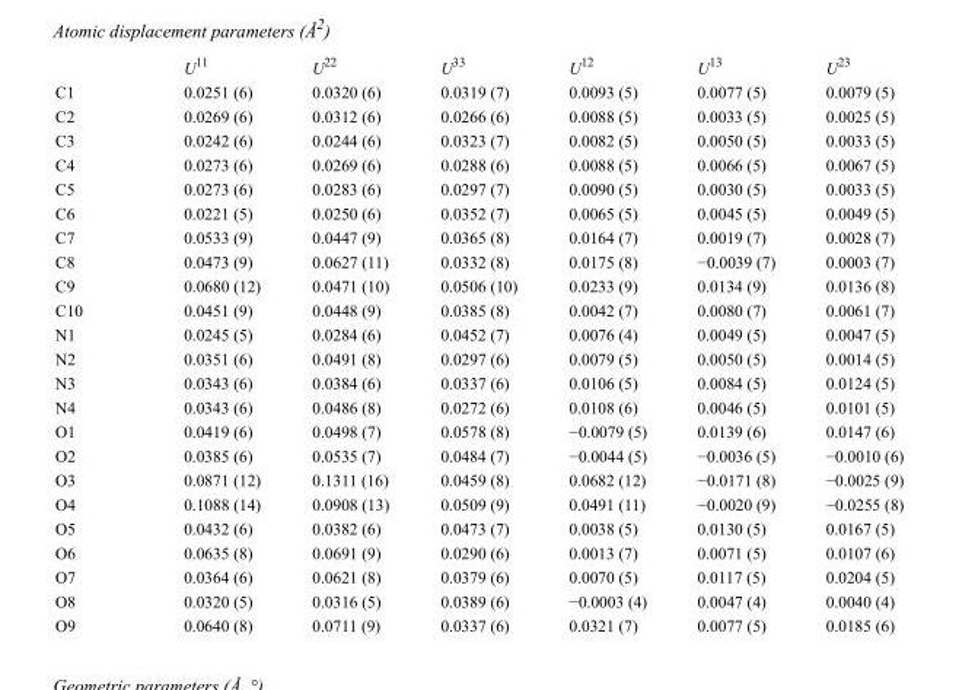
<table><thead><tr><td></td><td>U<sup>11</sup></td><td>U<sup>22</sup></td><td>U<sup>33</sup></td><td>U<sup>12</sup></td><td>U<sup>13</sup></td><td>U<sup>23</sup></td></tr></thead><tbody><tr><td>C1</td><td>0.0251 (6)</td><td>0.0320 (6)</td><td>0.0319 (7)</td><td>0.0093 (5)</td><td>0.0077 (5)</td><td>0.0079 (5)</td></tr><tr><td>C2</td><td>0.0269 (6)</td><td>0.0312 (6)</td><td>0.0266 (6)</td><td>0.0088 (5)</td><td>0.0033 (5)</td><td>0.0025 (5)</td></tr><tr><td>C3</td><td>0.0242 (6)</td><td>0.0244 (6)</td><td>0.0323 (7)</td><td>0.0082 (5)</td><td>0.0050 (5)</td><td>0.0033 (5)</td></tr><tr><td>C4</td><td>0.0273 (6)</td><td>0.0269 (6)</td><td>0.0288 (6)</td><td>0.0088 (5)</td><td>0.0066 (5)</td><td>0.0067 (5)</td></tr><tr><td>C5</td><td>0.0273 (6)</td><td>0.0283 (6)</td><td>0.0297 (7)</td><td>0.0090 (5)</td><td>0.0030 (5)</td><td>0.0033 (5)</td></tr><tr><td>C6</td><td>0.0221 (5)</td><td>0.0250 (6)</td><td>0.0352 (7)</td><td>0.0065 (5)</td><td>0.0045 (5)</td><td>0.0049 (5)</td></tr><tr><td>C7</td><td>0.0533 (9)</td><td>0.0447 (9)</td><td>0.0365 (8)</td><td>0.0164 (7)</td><td>0.0019 (7)</td><td>0.0028 (7)</td></tr><tr><td>C8</td><td>0.0473 (9)</td><td>0.0627 (11)</td><td>0.0332 (8)</td><td>0.0175 (8)</td><td>−0.0039 (7)</td><td>0.0003 (7)</td></tr><tr><td>C9</td><td>0.0680 (12)</td><td>0.0471 (10)</td><td>0.0506 (10)</td><td>0.0233 (9)</td><td>0.0134 (9)</td><td>0.0136 (8)</td></tr><tr><td>C10</td><td>0.0451 (9)</td><td>0.0448 (9)</td><td>0.0385 (8)</td><td>0.0042 (7)</td><td>0.0080 (7)</td><td>0.0061 (7)</td></tr><tr><td>N1</td><td>0.0245 (5)</td><td>0.0284 (6)</td><td>0.0452 (7)</td><td>0.0076 (4)</td><td>0.0049 (5)</td><td>0.0047 (5)</td></tr><tr><td>N2</td><td>0.0351 (6)</td><td>0.0491 (8)</td><td>0.0297 (6)</td><td>0.0079 (5)</td><td>0.0050 (5)</td><td>0.0014 (5)</td></tr><tr><td>N3</td><td>0.0343 (6)</td><td>0.0384 (6)</td><td>0.0337 (6)</td><td>0.0106 (5)</td><td>0.0084 (5)</td><td>0.0124 (5)</td></tr><tr><td>N4</td><td>0.0343 (6)</td><td>0.0486 (8)</td><td>0.0272 (6)</td><td>0.0108 (6)</td><td>0.0046 (5)</td><td>0.0101 (5)</td></tr><tr><td>O1</td><td>0.0419 (6)</td><td>0.0498 (7)</td><td>0.0578 (8)</td><td>−0.0079 (5)</td><td>0.0139 (6)</td><td>0.0147 (6)</td></tr><tr><td>O2</td><td>0.0385 (6)</td><td>0.0535 (7)</td><td>0.0484 (7)</td><td>−0.0044 (5)</td><td>−0.0036 (5)</td><td>−0.0010 (6)</td></tr><tr><td>O3</td><td>0.0871 (12)</td><td>0.1311 (16)</td><td>0.0459 (8)</td><td>0.0682 (12)</td><td>−0.0171 (8)</td><td>−0.0025 (9)</td></tr><tr><td>O4</td><td>0.1088 (14)</td><td>0.0908 (13)</td><td>0.0509 (9)</td><td>0.0491 (11)</td><td>−0.0020 (9)</td><td>−0.0255 (8)</td></tr><tr><td>O5</td><td>0.0432 (6)</td><td>0.0382 (6)</td><td>0.0473 (7)</td><td>0.0038 (5)</td><td>0.0130 (5)</td><td>0.0167 (5)</td></tr><tr><td>O6</td><td>0.0635 (8)</td><td>0.0691 (9)</td><td>0.0290 (6)</td><td>0.0013 (7)</td><td>0.0071 (5)</td><td>0.0107 (6)</td></tr><tr><td>O7</td><td>0.0364 (6)</td><td>0.0621 (8)</td><td>0.0379 (6)</td><td>0.0070 (5)</td><td>0.0117 (5)</td><td>0.0204 (5)</td></tr><tr><td>O8</td><td>0.0320 (5)</td><td>0.0316 (5)</td><td>0.0389 (6)</td><td>−0.0003 (4)</td><td>0.0047 (4)</td><td>0.0040 (4)</td></tr><tr><td>O9</td><td>0.0640 (8)</td><td>0.0711 (9)</td><td>0.0337 (6)</td><td>0.0321 (7)</td><td>0.0077 (5)</td><td>0.0185 (6)</td></tr></tbody></table>